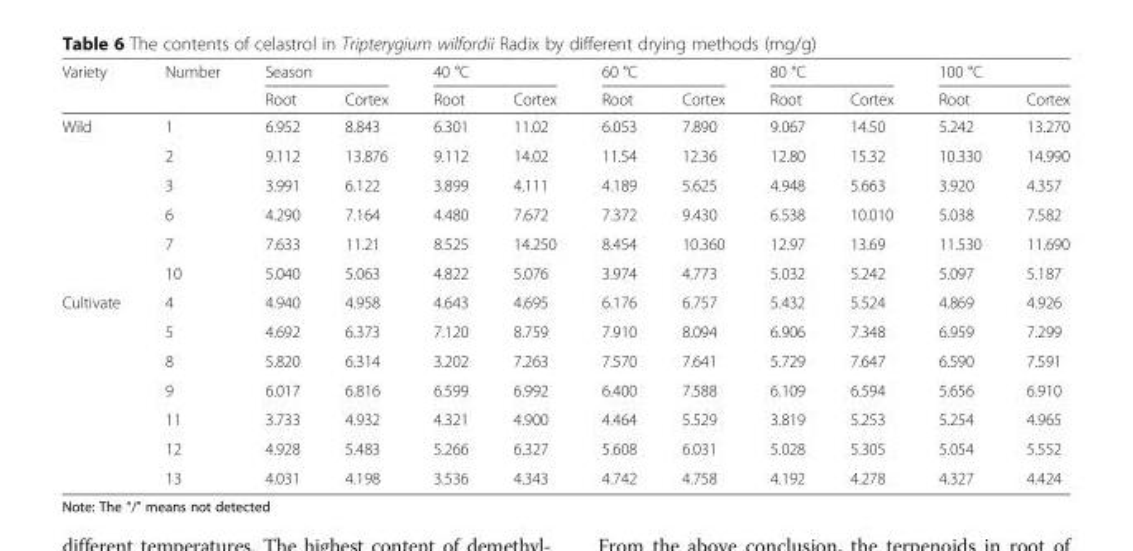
<table><thead><tr><td rowspan="2">Variety</td><td rowspan="2">Number</td><td colspan="2">Season</td><td colspan="2">40 °C</td><td colspan="2">60 °C</td><td colspan="2">80 °C</td><td colspan="2">100 °C</td></tr><tr><td>Root</td><td>Cortex</td><td>Root</td><td>Cortex</td><td>Root</td><td>Cortex</td><td>Root</td><td>Cortex</td><td>Root</td><td>Cortex</td></tr></thead><tbody><tr><td rowspan="6">Wild</td><td>1</td><td>6.952</td><td>8.843</td><td>6.301</td><td>11.02</td><td>6.053</td><td>7.890</td><td>9.067</td><td>14.50</td><td>5.242</td><td>13.270</td></tr><tr><td>2</td><td>9.112</td><td>13.876</td><td>9.112</td><td>14.02</td><td>11.54</td><td>12.36</td><td>12.80</td><td>15.32</td><td>10.330</td><td>14.990</td></tr><tr><td>3</td><td>3.991</td><td>6.122</td><td>3.899</td><td>4.111</td><td>4.189</td><td>5.625</td><td>4.948</td><td>5.663</td><td>3.920</td><td>4.357</td></tr><tr><td>6</td><td>4.290</td><td>7.164</td><td>4.480</td><td>7.672</td><td>7.372</td><td>9.430</td><td>6.538</td><td>10.010</td><td>5.038</td><td>7.582</td></tr><tr><td>7</td><td>7.633</td><td>11.21</td><td>8.525</td><td>14.250</td><td>8.454</td><td>10.360</td><td>12.97</td><td>13.69</td><td>11.530</td><td>11.690</td></tr><tr><td>10</td><td>5.040</td><td>5.063</td><td>4.822</td><td>5.076</td><td>3.974</td><td>4.773</td><td>5.032</td><td>5.242</td><td>5.097</td><td>5.187</td></tr><tr><td rowspan="7">Cultivate</td><td>4</td><td>4.940</td><td>4.958</td><td>4.643</td><td>4.695</td><td>6.176</td><td>6.757</td><td>5.432</td><td>5.524</td><td>4.869</td><td>4.926</td></tr><tr><td>5</td><td>4.692</td><td>6.373</td><td>7.120</td><td>8.759</td><td>7.910</td><td>8.094</td><td>6.906</td><td>7.348</td><td>6.959</td><td>7.299</td></tr><tr><td>8</td><td>5.820</td><td>6.314</td><td>3.202</td><td>7.263</td><td>7.570</td><td>7.641</td><td>5.729</td><td>7.647</td><td>6.590</td><td>7.591</td></tr><tr><td>9</td><td>6.017</td><td>6.816</td><td>6.599</td><td>6.992</td><td>6.400</td><td>7.588</td><td>6.109</td><td>6.594</td><td>5.656</td><td>6.910</td></tr><tr><td>11</td><td>3.733</td><td>4.932</td><td>4.321</td><td>4.900</td><td>4.464</td><td>5.529</td><td>3.819</td><td>5.253</td><td>5.254</td><td>4.965</td></tr><tr><td>12</td><td>4.928</td><td>5.483</td><td>5.266</td><td>6.327</td><td>5.608</td><td>6.031</td><td>5.028</td><td>5.305</td><td>5.054</td><td>5.552</td></tr><tr><td>13</td><td>4.031</td><td>4.198</td><td>3.536</td><td>4.343</td><td>4.742</td><td>4.758</td><td>4.192</td><td>4.278</td><td>4.327</td><td>4.424</td></tr></tbody></table>